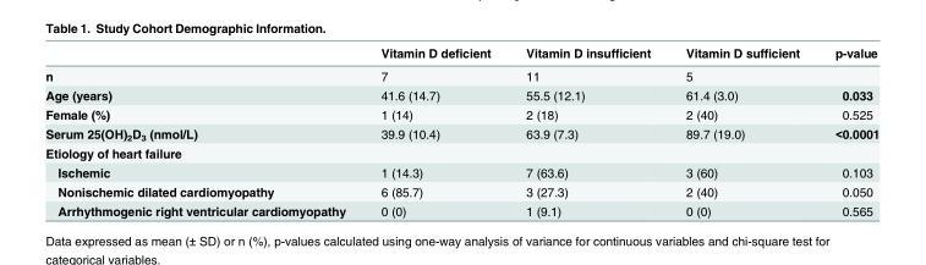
<table><thead><tr><td></td><td>Vitamin D deficient</td><td>Vitamin D insufficient</td><td>Vitamin D sufficient</td><td>p-value</td></tr></thead><tbody><tr><td>n</td><td>7</td><td>11</td><td>5</td><td></td></tr><tr><td>Age (years)</td><td>41.6 (14.7)</td><td>55.5 (12.1)</td><td>61.4 (3.0)</td><td>0.033</td></tr><tr><td>Female (%)</td><td>1 (14)</td><td>2 (18)</td><td>2 (40)</td><td>0.525</td></tr><tr><td>Serum 25(OH)<sub>2</sub>D<sub>3</sub> (nmol/L)</td><td>39.9 (10.4)</td><td>63.9 (7.3)</td><td>89.7 (19.0)</td><td>&lt;0.0001</td></tr><tr><td colspan="5">Etiology of heart failure</td></tr><tr><td>Ischemic</td><td>1 (14.3)</td><td>7 (63.6)</td><td>3 (60)</td><td>0.103</td></tr><tr><td>Nonischemic dilated cardiomyopathy</td><td>6 (85.7)</td><td>3 (27.3)</td><td>2 (40)</td><td>0.050</td></tr><tr><td>Arrhythmogenic right ventricular cardiomyopathy</td><td>0 (0)</td><td>1 (9.1)</td><td>0 (0)</td><td>0.565</td></tr></tbody></table>